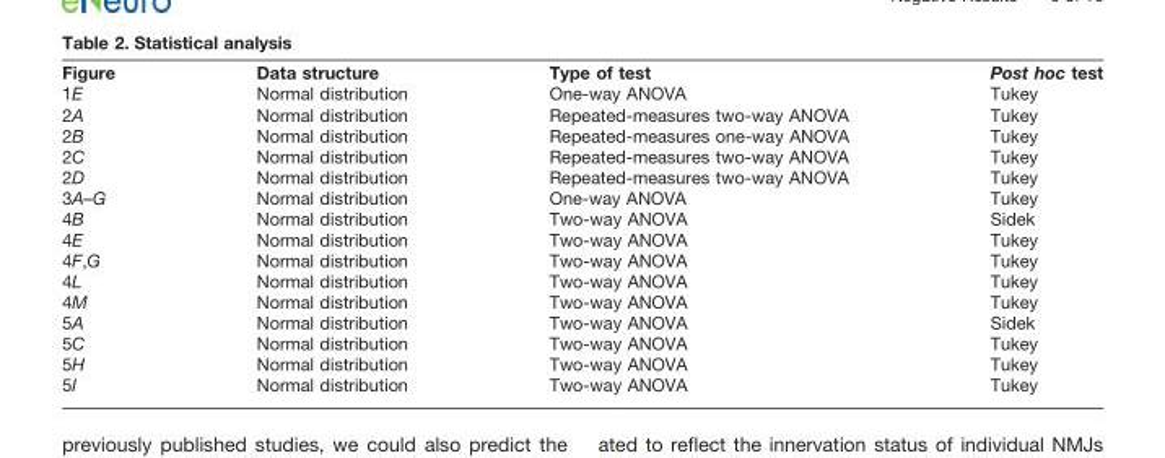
<table><thead><tr><td>Figure</td><td>Data structure</td><td>Type of test</td><td>Post hoc test</td></tr></thead><tbody><tr><td>1E</td><td>Normal distribution</td><td>One-way ANOVA</td><td>Tukey</td></tr><tr><td>2A</td><td>Normal distribution</td><td>Repeated-measures two-way ANOVA</td><td>Tukey</td></tr><tr><td>2B</td><td>Normal distribution</td><td>Repeated-measures one-way ANOVA</td><td>Tukey</td></tr><tr><td>2C</td><td>Normal distribution</td><td>Repeated-measures two-way ANOVA</td><td>Tukey</td></tr><tr><td>2D</td><td>Normal distribution</td><td>Repeated-measures two-way ANOVA</td><td>Tukey</td></tr><tr><td>3A–G</td><td>Normal distribution</td><td>One-way ANOVA</td><td>Tukey</td></tr><tr><td>4B</td><td>Normal distribution</td><td>Two-way ANOVA</td><td>Sidek</td></tr><tr><td>4E</td><td>Normal distribution</td><td>Two-way ANOVA</td><td>Tukey</td></tr><tr><td>4F,G</td><td>Normal distribution</td><td>Two-way ANOVA</td><td>Tukey</td></tr><tr><td>4L</td><td>Normal distribution</td><td>Two-way ANOVA</td><td>Tukey</td></tr><tr><td>4M</td><td>Normal distribution</td><td>Two-way ANOVA</td><td>Tukey</td></tr><tr><td>5A</td><td>Normal distribution</td><td>Two-way ANOVA</td><td>Sidek</td></tr><tr><td>5C</td><td>Normal distribution</td><td>Two-way ANOVA</td><td>Tukey</td></tr><tr><td>5H</td><td>Normal distribution</td><td>Two-way ANOVA</td><td>Tukey</td></tr><tr><td>5I</td><td>Normal distribution</td><td>Two-way ANOVA</td><td>Tukey</td></tr></tbody></table>